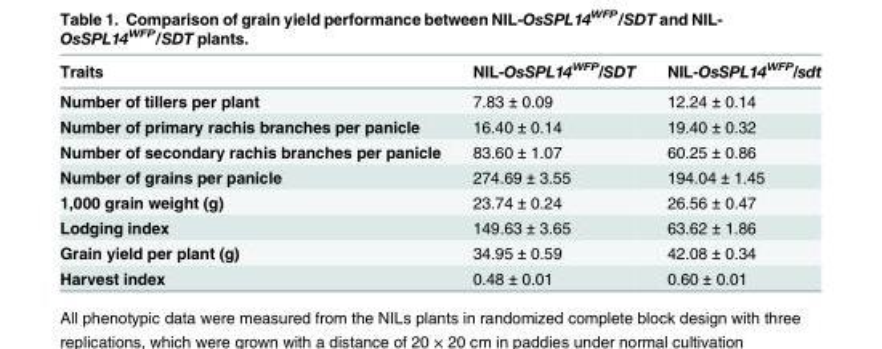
<table><thead><tr><td>Traits</td><td>NIL-OsSPL14<sup>WFP</sup>/SDT</td><td>NIL-OsSPL14<sup>WFP</sup>/sdt</td></tr></thead><tbody><tr><td>Number of tillers per plant</td><td>7.83 ± 0.09</td><td>12.24 ± 0.14</td></tr><tr><td>Number of primary rachis branches per panicle</td><td>16.40 ± 0.14</td><td>19.40 ± 0.32</td></tr><tr><td>Number of secondary rachis branches per panicle</td><td>83.60 ± 1.07</td><td>60.25 ± 0.86</td></tr><tr><td>Number of grains per panicle</td><td>274.69 ± 3.55</td><td>194.04 ± 1.45</td></tr><tr><td>1,000 grain weight (g)</td><td>23.74 ± 0.24</td><td>26.56 ± 0.47</td></tr><tr><td>Lodging index</td><td>149.63 ± 3.65</td><td>63.62 ± 1.86</td></tr><tr><td>Grain yield per plant (g)</td><td>34.95 ± 0.59</td><td>42.08 ± 0.34</td></tr><tr><td>Harvest index</td><td>0.48 ± 0.01</td><td>0.60 ± 0.01</td></tr></tbody></table>